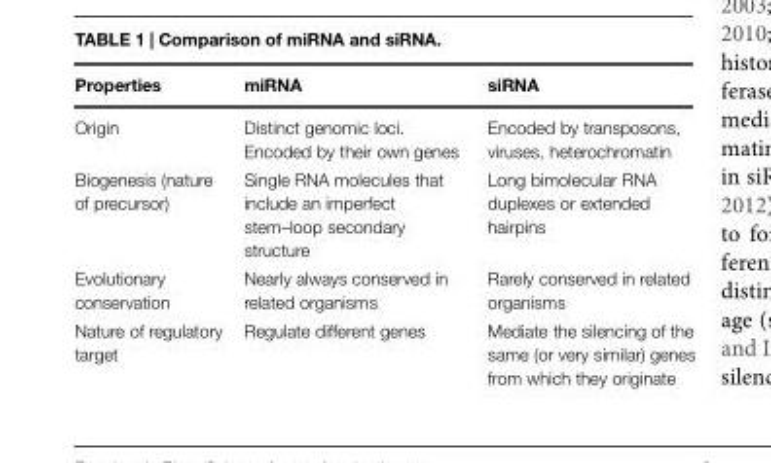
<table><thead><tr><td>Properties</td><td>miRNA</td><td>siRNA</td></tr></thead><tbody><tr><td>Origin</td><td>Distinct genomic loci. Encoded by their own genes</td><td>Encoded by transposons, viruses, heterochromatin</td></tr><tr><td>Biogenesis (nature of precursor)</td><td>Single RNA molecules that include an imperfect stem–loop secondary structure</td><td>Long bimolecular RNA duplexes or extended hairpins</td></tr><tr><td>Evolutionary conservation</td><td>Nearly always conserved in related organisms</td><td>Rarely conserved in related organisms</td></tr><tr><td>Nature of regulatory target</td><td>Regulate different genes</td><td>Mediate the silencing of the same (or very similar) genes from which they originate</td></tr></tbody></table>